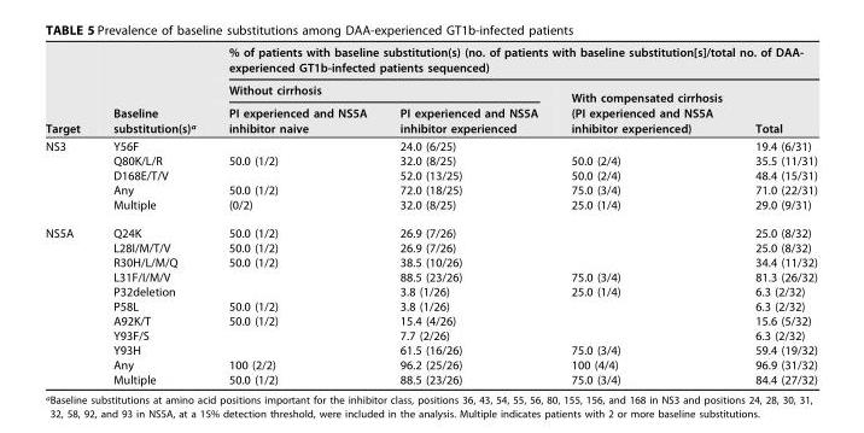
<table><thead><tr><td rowspan="3">Target</td><td rowspan="3">Baseline substitution(s)<sup>a</sup></td><td colspan="4">% of patients with baseline substitution(s) (no. of patients with baseline substitution[s]/total no. of DAA- experienced GT1b-infected patients sequenced)</td></tr><tr><td colspan="2">Without cirrhosis</td><td rowspan="2">With compensated cirrhosis (PI experienced and NS5A inhibitor experienced)</td><td rowspan="2">Total</td></tr><tr><td>PI experienced and NS5A inhibitor naive</td><td>PI experienced and NS5A inhibitor experienced</td></tr></thead><tbody><tr><td rowspan="5">NS3</td><td>Y56F</td><td></td><td>24.0 (6/25)</td><td></td><td>19.4 (6/31)</td></tr><tr><td>Q80K/L/R</td><td>50.0 (1/2)</td><td>32.0 (8/25)</td><td>50.0 (2/4)</td><td>35.5 (11/31)</td></tr><tr><td>D168E/T/V</td><td></td><td>52.0 (13/25)</td><td>50.0 (2/4)</td><td>48.4 (15/31)</td></tr><tr><td>Any</td><td>50.0 (1/2)</td><td>72.0 (18/25)</td><td>75.0 (3/4)</td><td>71.0 (22/31)</td></tr><tr><td>Multiple</td><td>(0/2)</td><td>32.0 (8/25)</td><td>25.0 (1/4)</td><td>29.0 (9/31)</td></tr><tr><td rowspan="11">NS5A</td><td>Q24K</td><td>50.0 (1/2)</td><td>26.9 (7/26)</td><td></td><td>25.0 (8/32)</td></tr><tr><td>L28I/M/T/V</td><td>50.0 (1/2)</td><td>26.9 (7/26)</td><td></td><td>25.0 (8/32)</td></tr><tr><td>R30H/L/M/Q</td><td>50.0 (1/2)</td><td>38.5 (10/26)</td><td></td><td>34.4 (11/32)</td></tr><tr><td>L31F/I/M/V</td><td></td><td>88.5 (23/26)</td><td>75.0 (3/4)</td><td>81.3 (26/32)</td></tr><tr><td>P32deletion</td><td></td><td>3.8 (1/26)</td><td>25.0 (1/4)</td><td>6.3 (2/32)</td></tr><tr><td>P58L</td><td>50.0 (1/2)</td><td>3.8 (1/26)</td><td></td><td>6.3 (2/32)</td></tr><tr><td>A92K/T</td><td>50.0 (1/2)</td><td>15.4 (4/26)</td><td></td><td>15.6 (5/32)</td></tr><tr><td>Y93F/S</td><td></td><td>7.7 (2/26)</td><td></td><td>6.3 (2/32)</td></tr><tr><td>Y93H</td><td></td><td>61.5 (16/26)</td><td>75.0 (3/4)</td><td>59.4 (19/32)</td></tr><tr><td>Any</td><td>100 (2/2)</td><td>96.2 (25/26)</td><td>100 (4/4)</td><td>96.9 (31/32)</td></tr><tr><td>Multiple</td><td>50.0 (1/2)</td><td>88.5 (23/26)</td><td>75.0 (3/4)</td><td>84.4 (27/32)</td></tr></tbody></table>